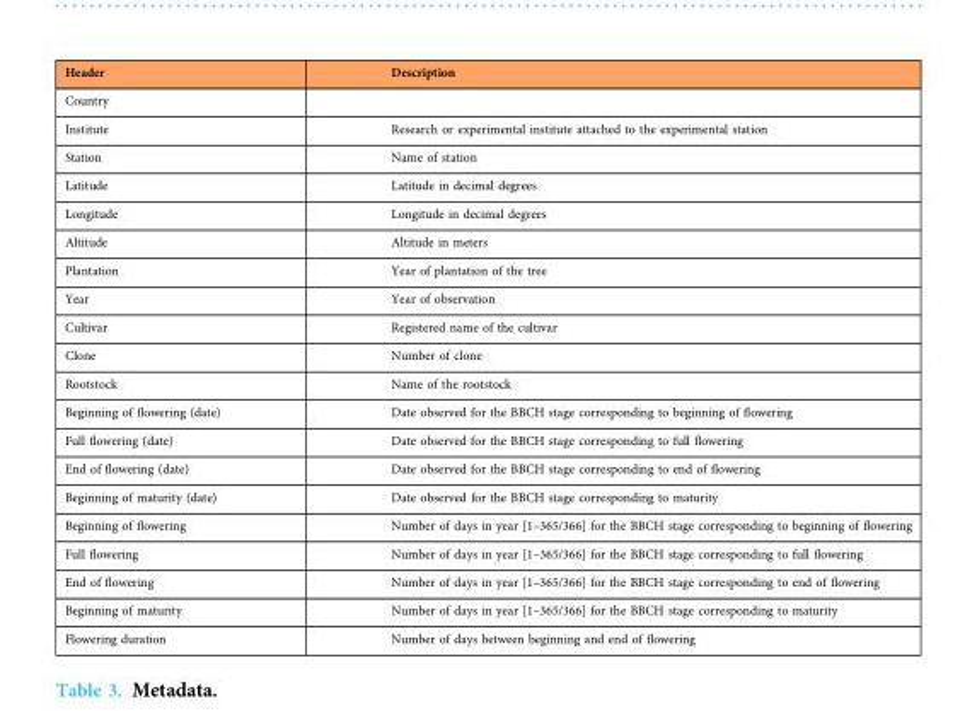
<table><thead><tr><td>Header</td><td>Description</td></tr></thead><tbody><tr><td colspan="2">Country</td></tr><tr><td>Institute</td><td>Research or experimental institute attached to the experimental station</td></tr><tr><td>Station</td><td>Name of station</td></tr><tr><td>Latitude</td><td>Latitude in decimal degrees</td></tr><tr><td>Longitude</td><td>Longitude in decimal degrees</td></tr><tr><td>Altitude</td><td>Altitude in meters</td></tr><tr><td>Plantation</td><td>Year of plantation of the tree</td></tr><tr><td>Year</td><td>Year of observation</td></tr><tr><td>Cultivar</td><td>Registered name of the cultivar</td></tr><tr><td>Clone</td><td>Number of clone</td></tr><tr><td>Rootstock</td><td>Name of the rootstock</td></tr><tr><td>Beginning of flowering (date)</td><td>Date observed for the BBCH stage corresponding to beginning of flowering</td></tr><tr><td>Full flowering (date)</td><td>Date observed for the BBCH stage corresponding to full flowering</td></tr><tr><td>End of flowering (date)</td><td>Date observed for the BBCH stage corresponding to end of flowering</td></tr><tr><td>Beginning of maturity (date)</td><td>Date observed for the BBCH stage corresponding to maturity</td></tr><tr><td>Beginning of flowering</td><td>Number of days in year [1–365/366] for the BBCH stage corresponding to beginning of flowering</td></tr><tr><td>Full flowering</td><td>Number of days in year [1–365/366] for the BBCH stage corresponding to full flowering</td></tr><tr><td>End of flowering</td><td>Number of days in year [1–365/366] for the BBCH stage corresponding to end of flowering</td></tr><tr><td>Beginning of maturity</td><td>Number of days in year [1–365/366] for the BBCH stage corresponding to maturity</td></tr><tr><td>Flowering duration</td><td>Number of days between beginning and end of flowering</td></tr></tbody></table>